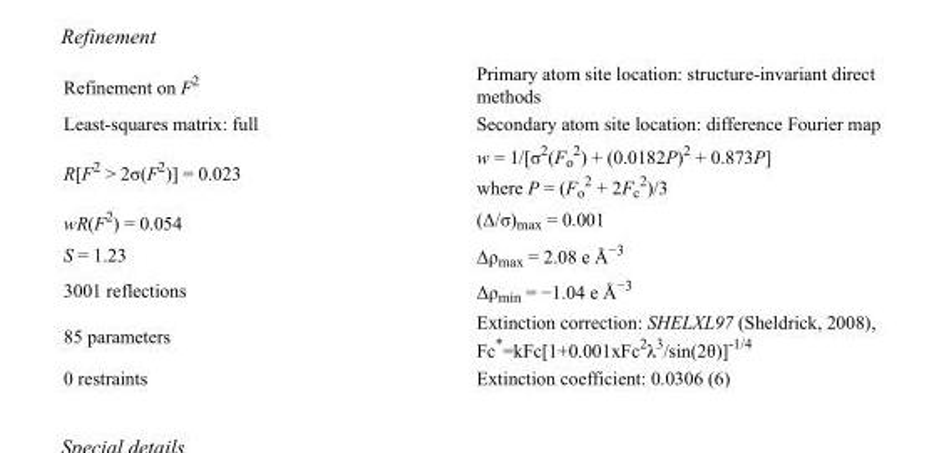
<table><tbody><tr><td>Refinement on F<sup>2</sup></td><td>Primary atom site location: structure-invariant direct methods</td></tr><tr><td>Least-squares matrix: full</td><td>Secondary atom site location: difference Fourier map</td></tr><tr><td>R[F<sup>2</sup> &gt; 2σ(F<sup>2</sup>)] = 0.023</td><td>w = 1/[σ<sup>2</sup>(F<sub>o</sub> <sup>2</sup>) + (0.0182P)<sup>2</sup> + 0.873P] where P = (F<sub>o</sub> <sup>2</sup> + 2F<sub>c</sub> <sup>2</sup>)/3</td></tr><tr><td>wR(F<sup>2</sup>) = 0.054</td><td>(Δ/σ)<sub>max</sub> = 0.001</td></tr><tr><td>S = 1.23</td><td>Δρ<sub>max</sub> = 2.08 e Å<sup>−3</sup></td></tr><tr><td>3001 reflections</td><td>Δρ<sub>min</sub> = −1.04 e Å<sup>−3</sup></td></tr><tr><td>85 parameters</td><td>Extinction correction: SHELXL97 (Sheldrick, 2008), Fc*=kFc[1+0.001xFc<sup>2</sup>λ<sup>3</sup>/sin(2θ)]<sup>-1/4</sup></td></tr><tr><td>0 restraints</td><td>Extinction coefficient: 0.0306 (6)</td></tr></tbody></table>